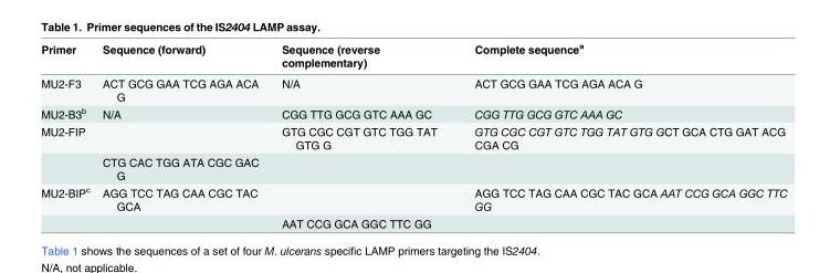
<table><thead><tr><td>Primer</td><td>Sequence (forward)</td><td>Sequence (reverse complementary)</td><td>Complete sequence<sup>a</sup></td></tr></thead><tbody><tr><td>MU2-F3</td><td>ACT GCG GAA TCG AGA ACA G</td><td>N/A</td><td>ACT GCG GAA TCG AGA ACA G</td></tr><tr><td>MU2-B3<sup>b</sup></td><td>N/A</td><td>CGG TTG GCG GTC AAA GC</td><td>CGG TTG GCG GTC AAA GC</td></tr><tr><td rowspan="2">MU2-FIP</td><td></td><td>GTG CGC CGT GTC TGG TAT GTG G</td><td>GTG CGC CGT GTC TGG TAT GTG GCT GCA CTG GAT ACG CGA CG</td></tr><tr><td>CTG CAC TGG ATA CGC GAC G</td><td></td><td></td></tr><tr><td rowspan="2">MU2-BIP<sup>c</sup></td><td>AGG TCC TAG CAA CGC TAC GCA</td><td></td><td>AGG TCC TAG CAA CGC TAC GCA AAT CCG GCA GGC TTC GG</td></tr><tr><td></td><td>AAT CCG GCA GGC TTC GG</td><td></td></tr></tbody></table>